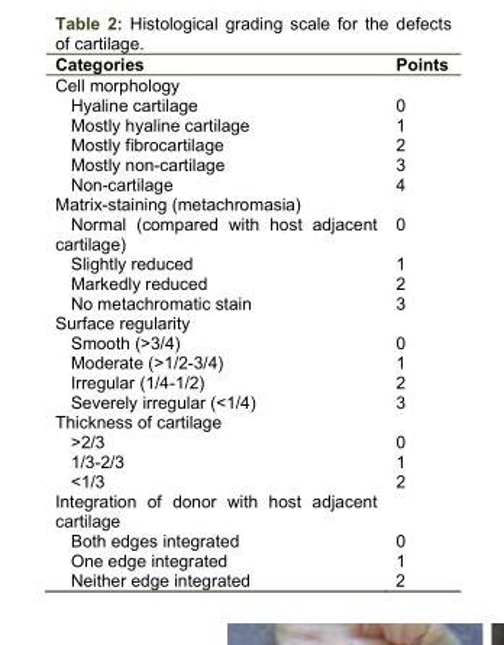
<table><thead><tr><td>Categories</td><td>Points</td></tr></thead><tbody><tr><td colspan="2">Cell morphology</td></tr><tr><td>Hyaline cartilage</td><td>0</td></tr><tr><td>Mostly hyaline cartilage</td><td>1</td></tr><tr><td>Mostly fibrocartilage</td><td>2</td></tr><tr><td>Mostly non-cartilage</td><td>3</td></tr><tr><td>Non-cartilage</td><td>4</td></tr><tr><td colspan="2">Matrix-staining (metachromasia)</td></tr><tr><td>Normal (compared with host adjacent cartilage)</td><td>0</td></tr><tr><td>Slightly reduced</td><td>1</td></tr><tr><td>Markedly reduced</td><td>2</td></tr><tr><td>No metachromatic stain</td><td>3</td></tr><tr><td colspan="2">Surface regularity</td></tr><tr><td>Smooth (&gt;3/4)</td><td>0</td></tr><tr><td>Moderate (&gt;1/2-3/4)</td><td>1</td></tr><tr><td>Irregular (1/4-1/2)</td><td>2</td></tr><tr><td>Severely irregular (&lt;1/4)</td><td>3</td></tr><tr><td colspan="2">Thickness of cartilage</td></tr><tr><td>&gt;2/3</td><td>0</td></tr><tr><td>1/3-2/3</td><td>1</td></tr><tr><td>&lt;1/3</td><td>2</td></tr><tr><td colspan="2">Integration of donor with host adjacent cartilage</td></tr><tr><td>Both edges integrated</td><td>0</td></tr><tr><td>One edge integrated</td><td>1</td></tr><tr><td>Neither edge integrated</td><td>2</td></tr></tbody></table>